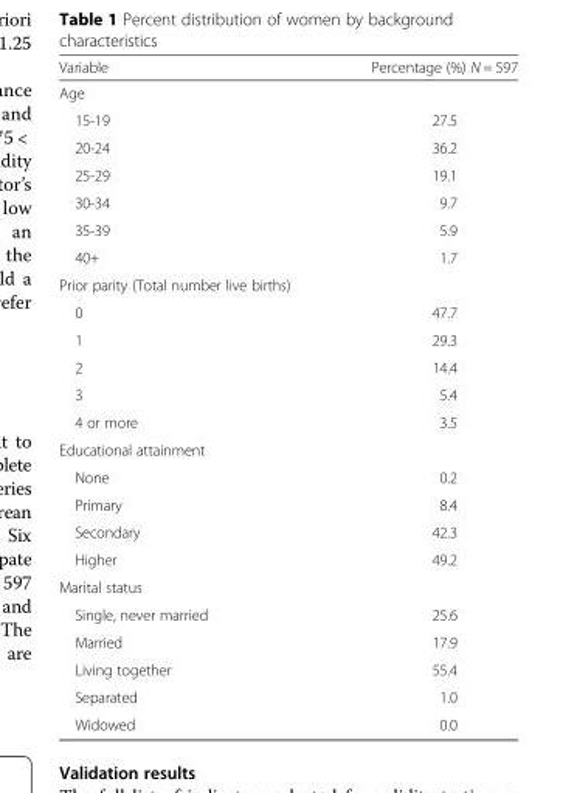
<table><thead><tr><td>Variable</td><td>Percentage (%) N = 597</td></tr></thead><tbody><tr><td colspan="2">Age</td></tr><tr><td>15-19</td><td>27.5</td></tr><tr><td>20-24</td><td>36.2</td></tr><tr><td>25-29</td><td>19.1</td></tr><tr><td>30-34</td><td>9.7</td></tr><tr><td>35-39</td><td>5.9</td></tr><tr><td>40+</td><td>1.7</td></tr><tr><td colspan="2">Prior parity (Total number live births)</td></tr><tr><td>0</td><td>47.7</td></tr><tr><td>1</td><td>29.3</td></tr><tr><td>2</td><td>14.4</td></tr><tr><td>3</td><td>5.4</td></tr><tr><td>4 or more</td><td>3.5</td></tr><tr><td colspan="2">Educational attainment</td></tr><tr><td>None</td><td>0.2</td></tr><tr><td>Primary</td><td>8.4</td></tr><tr><td>Secondary</td><td>42.3</td></tr><tr><td>Higher</td><td>49.2</td></tr><tr><td colspan="2">Marital status</td></tr><tr><td>Single, never married</td><td>25.6</td></tr><tr><td>Married</td><td>17.9</td></tr><tr><td>Living together</td><td>55.4</td></tr><tr><td>Separated</td><td>1.0</td></tr><tr><td>Widowed</td><td>0.0</td></tr></tbody></table>